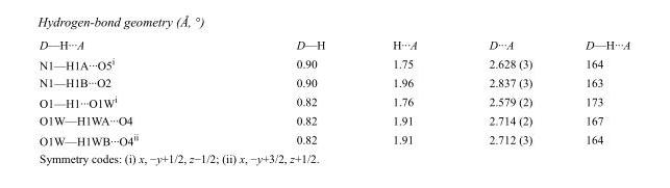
<table><tbody><tr><td>D—H···A</td><td>D—H</td><td>H···A</td><td>D···A</td><td>D—H···A</td></tr><tr><td>N1—H1A···O5<sup>i</sup></td><td>0.90</td><td>1.75</td><td>2.628 (3)</td><td>164</td></tr><tr><td>N1—H1B···O2</td><td>0.90</td><td>1.96</td><td>2.837 (3)</td><td>163</td></tr><tr><td>O1—H1···O1W<sup>i</sup></td><td>0.82</td><td>1.76</td><td>2.579 (2)</td><td>173</td></tr><tr><td>O1W—H1WA···O4</td><td>0.82</td><td>1.91</td><td>2.714 (2)</td><td>167</td></tr><tr><td>O1W—H1WB···O4<sup>ii</sup></td><td>0.82</td><td>1.91</td><td>2.712 (3)</td><td>164</td></tr></tbody></table>